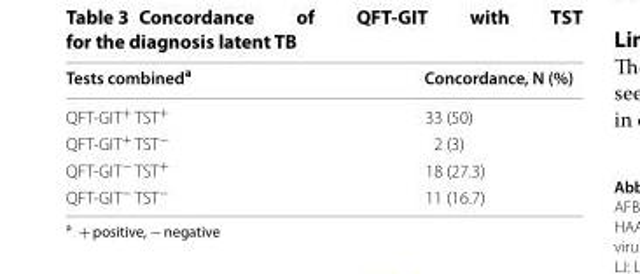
<table><thead><tr><td>Tests combined<sup>a</sup></td><td>Concordance, N (%)</td></tr></thead><tbody><tr><td>QFT-GIT<sup>+</sup> TST<sup>+</sup></td><td>33 (50)</td></tr><tr><td>QFT-GIT<sup>+</sup> TST<sup>−</sup></td><td>2 (3)</td></tr><tr><td>QFT-GIT<sup>−</sup> TST<sup>+</sup></td><td>18 (27.3)</td></tr><tr><td>QFT-GIT<sup>−</sup> TST<sup>−</sup></td><td>11 (16.7)</td></tr></tbody></table>